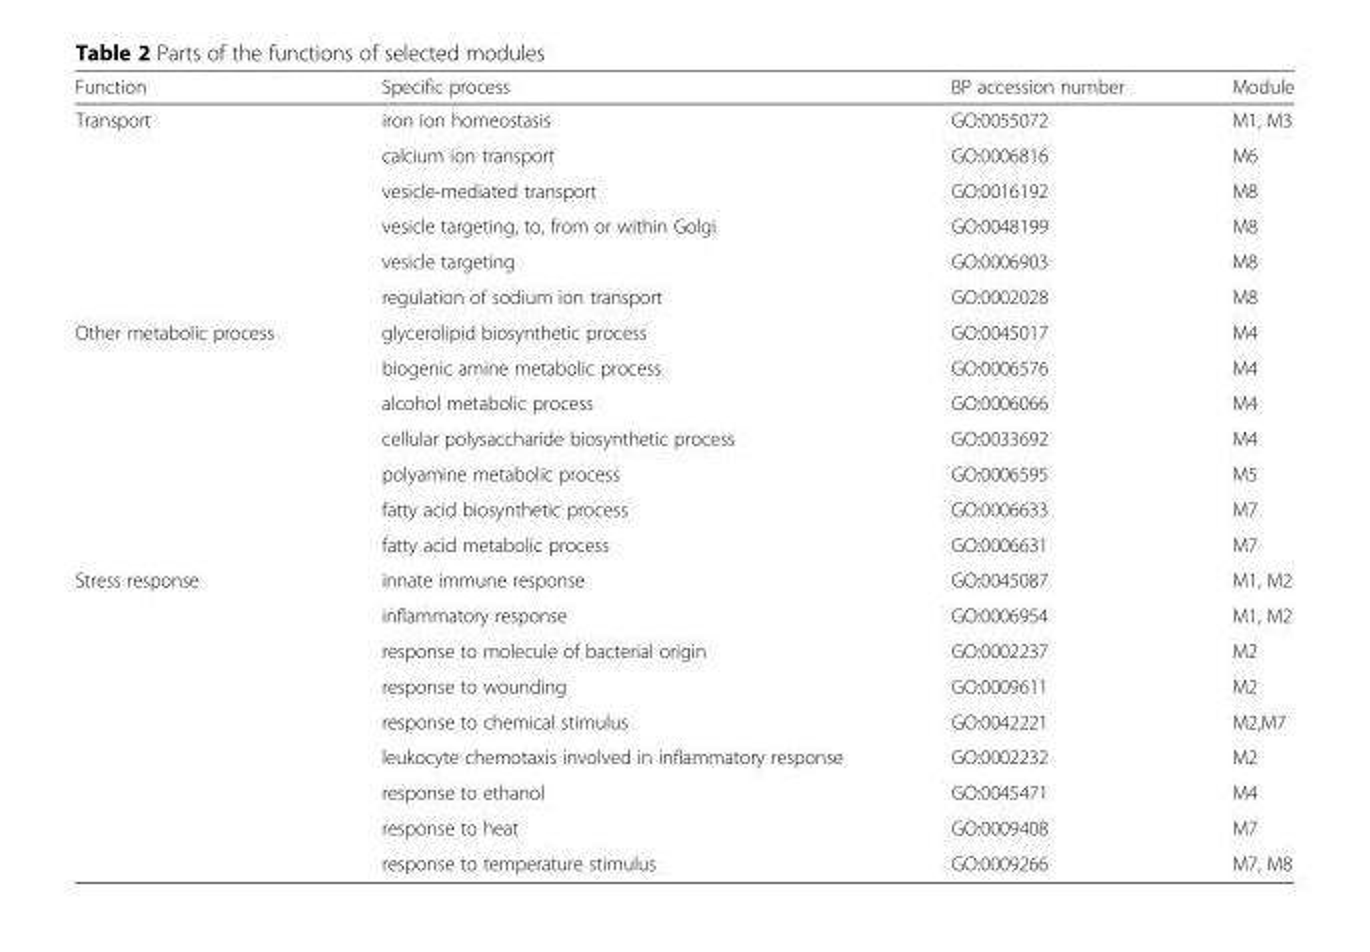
<table><thead><tr><td>Function</td><td>Specific process</td><td>BP accession number</td><td>Module</td></tr></thead><tbody><tr><td rowspan="6">Transport</td><td>iron ion homeostasis</td><td>GO:0055072</td><td>M1, M3</td></tr><tr><td>calcium ion transport</td><td>GO:0006816</td><td>M6</td></tr><tr><td>vesicle-mediated transport</td><td>GO:0016192</td><td>M8</td></tr><tr><td>vesicle targeting, to, from or within Golgi</td><td>GO:0048199</td><td>M8</td></tr><tr><td>vesicle targeting</td><td>GO:0006903</td><td>M8</td></tr><tr><td>regulation of sodium ion transport</td><td>GO:0002028</td><td>M8</td></tr><tr><td rowspan="7">Other metabolic process</td><td>glycerolipid biosynthetic process</td><td>GO:0045017</td><td>M4</td></tr><tr><td>biogenic amine metabolic process</td><td>GO:0006576</td><td>M4</td></tr><tr><td>alcohol metabolic process</td><td>GO:0006066</td><td>M4</td></tr><tr><td>cellular polysaccharide biosynthetic process</td><td>GO:0033692</td><td>M4</td></tr><tr><td>polyamine metabolic process</td><td>GO:0006595</td><td>M5</td></tr><tr><td>fatty acid biosynthetic process</td><td>GO:0006633</td><td>M7</td></tr><tr><td>fatty acid metabolic process</td><td>GO:0006631</td><td>M7</td></tr><tr><td rowspan="9">Stress response</td><td>innate immune response</td><td>GO:0045087</td><td>M1, M2</td></tr><tr><td>inflammatory response</td><td>GO:0006954</td><td>M1, M2</td></tr><tr><td>response to molecule of bacterial origin</td><td>GO:0002237</td><td>M2</td></tr><tr><td>response to wounding</td><td>GO:0009611</td><td>M2</td></tr><tr><td>response to chemical stimulus</td><td>GO:0042221</td><td>M2,M7</td></tr><tr><td>leukocyte chemotaxis involved in inflammatory response</td><td>GO:0002232</td><td>M2</td></tr><tr><td>response to ethanol</td><td>GO:0045471</td><td>M4</td></tr><tr><td>response to heat</td><td>GO:0009408</td><td>M7</td></tr><tr><td>response to temperature stimulus</td><td>GO:0009266</td><td>M7, M8</td></tr></tbody></table>